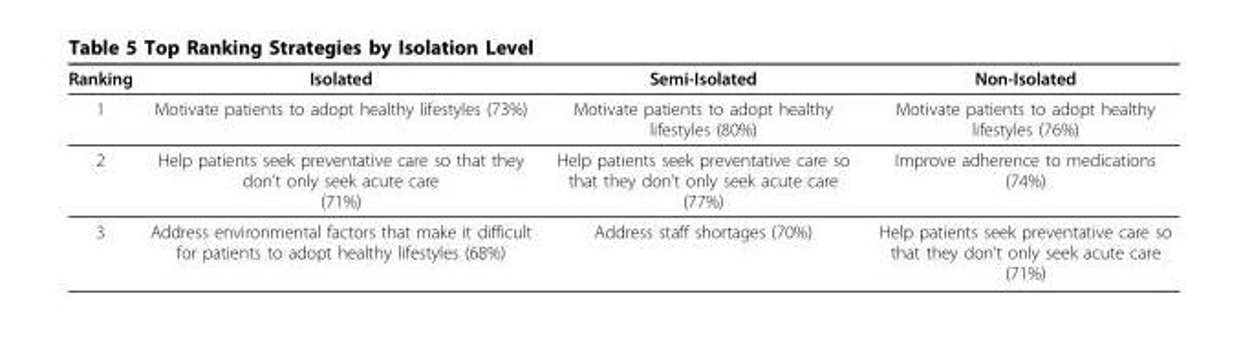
<table><thead><tr><td>Ranking</td><td>Isolated</td><td>Semi-Isolated</td><td>Non-Isolated</td></tr></thead><tbody><tr><td>1</td><td>Motivate patients to adopt healthy lifestyles (73%)</td><td>Motivate patients to adopt healthy lifestyles (80%)</td><td>Motivate patients to adopt healthy lifestyles (76%)</td></tr><tr><td>2</td><td>Help patients seek preventative care so that they don’t only seek acute care (71%)</td><td>Help patients seek preventative care so that they don’t only seek acute care (77%)</td><td>Improve adherence to medications (74%)</td></tr><tr><td>3</td><td>Address environmental factors that make it difficult for patients to adopt healthy lifestyles (68%)</td><td>Address staff shortages (70%)</td><td>Help patients seek preventative care so that they don’t only seek acute care (71%)</td></tr></tbody></table>